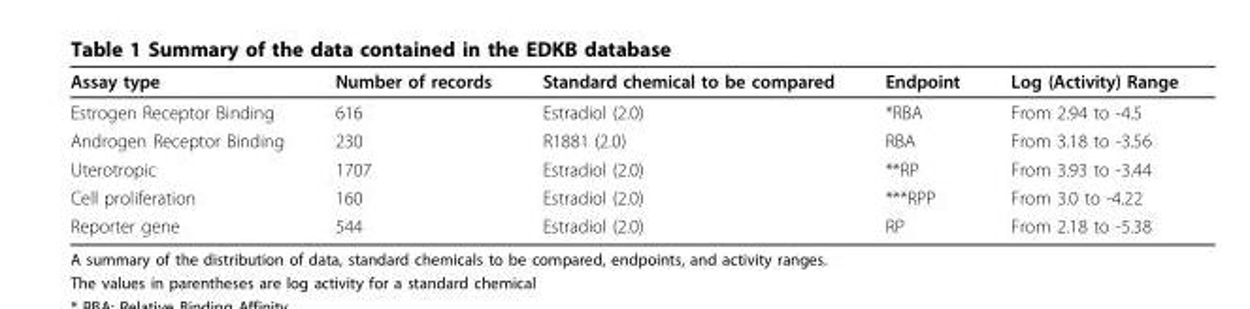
<table><thead><tr><td>Assay type</td><td>Number of records</td><td>Standard chemical to be compared</td><td>Endpoint</td><td>Log (Activity) Range</td></tr></thead><tbody><tr><td>Estrogen Receptor Binding</td><td>616</td><td>Estradiol (2.0)</td><td>*RBA</td><td>From 2.94 to -4.5</td></tr><tr><td>Androgen Receptor Binding</td><td>230</td><td>R1881 (2.0)</td><td>RBA</td><td>From 3.18 to -3.56</td></tr><tr><td>Uterotropic</td><td>1707</td><td>Estradiol (2.0)</td><td>**RP</td><td>From 3.93 to -3.44</td></tr><tr><td>Cell proliferation</td><td>160</td><td>Estradiol (2.0)</td><td>***RPP</td><td>From 3.0 to -4.22</td></tr><tr><td>Reporter gene</td><td>544</td><td>Estradiol (2.0)</td><td>RP</td><td>From 2.18 to -5.38</td></tr></tbody></table>